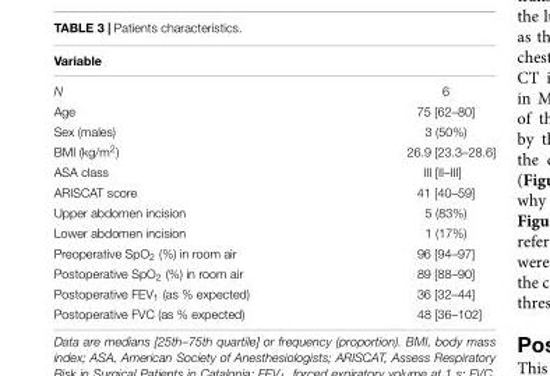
<table><thead><tr><td>Variable</td><td></td></tr></thead><tbody><tr><td>N</td><td>6</td></tr><tr><td>Age</td><td>75 [62–80]</td></tr><tr><td>Sex (males)</td><td>3 (50%)</td></tr><tr><td>BMI (kg/m<sup>2</sup>)</td><td>26.9 [23.3–28.6]</td></tr><tr><td>ASA class</td><td>III [II–III]</td></tr><tr><td>ARISCAT score</td><td>41 [40–59]</td></tr><tr><td>Upper abdomen incision</td><td>5 (83%)</td></tr><tr><td>Lower abdomen incision</td><td>1 (17%)</td></tr><tr><td>Preoperative SpO<sub>2</sub> (%) in room air</td><td>96 [94–97]</td></tr><tr><td>Postoperative SpO<sub>2</sub> (%) in room air</td><td>89 [88–90]</td></tr><tr><td>Postoperative FEV<sub>1</sub> (as % expected)</td><td>36 [32–44]</td></tr><tr><td>Postoperative FVC (as % expected)</td><td>48 [36–102]</td></tr></tbody></table>